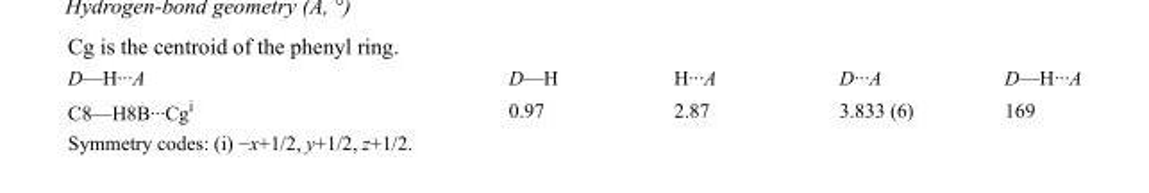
<table><tbody><tr><td>D—H···A</td><td>D—H</td><td>H···A</td><td>D···A</td><td>D—H···A</td></tr><tr><td>C8—H8B···Cg<sup>i</sup></td><td>0.97</td><td>2.87</td><td>3.833 (6)</td><td>169</td></tr></tbody></table>